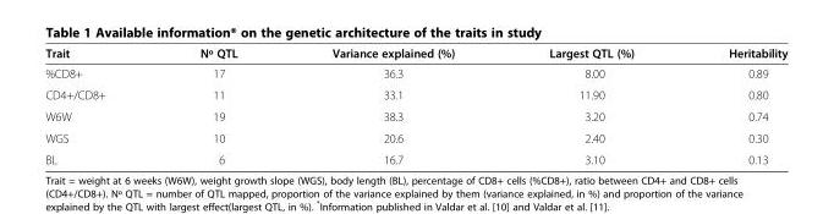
<table><thead><tr><td>Trait</td><td>Nº QTL</td><td>Variance explained (%)</td><td>Largest QTL (%)</td><td>Heritability</td></tr></thead><tbody><tr><td>%CD8+</td><td>17</td><td>36.3</td><td>8.00</td><td>0.89</td></tr><tr><td>CD4+/CD8+</td><td>11</td><td>33.1</td><td>11.90</td><td>0.80</td></tr><tr><td>W6W</td><td>19</td><td>38.3</td><td>3.20</td><td>0.74</td></tr><tr><td>WGS</td><td>10</td><td>20.6</td><td>2.40</td><td>0.30</td></tr><tr><td>BL</td><td>6</td><td>16.7</td><td>3.10</td><td>0.13</td></tr></tbody></table>